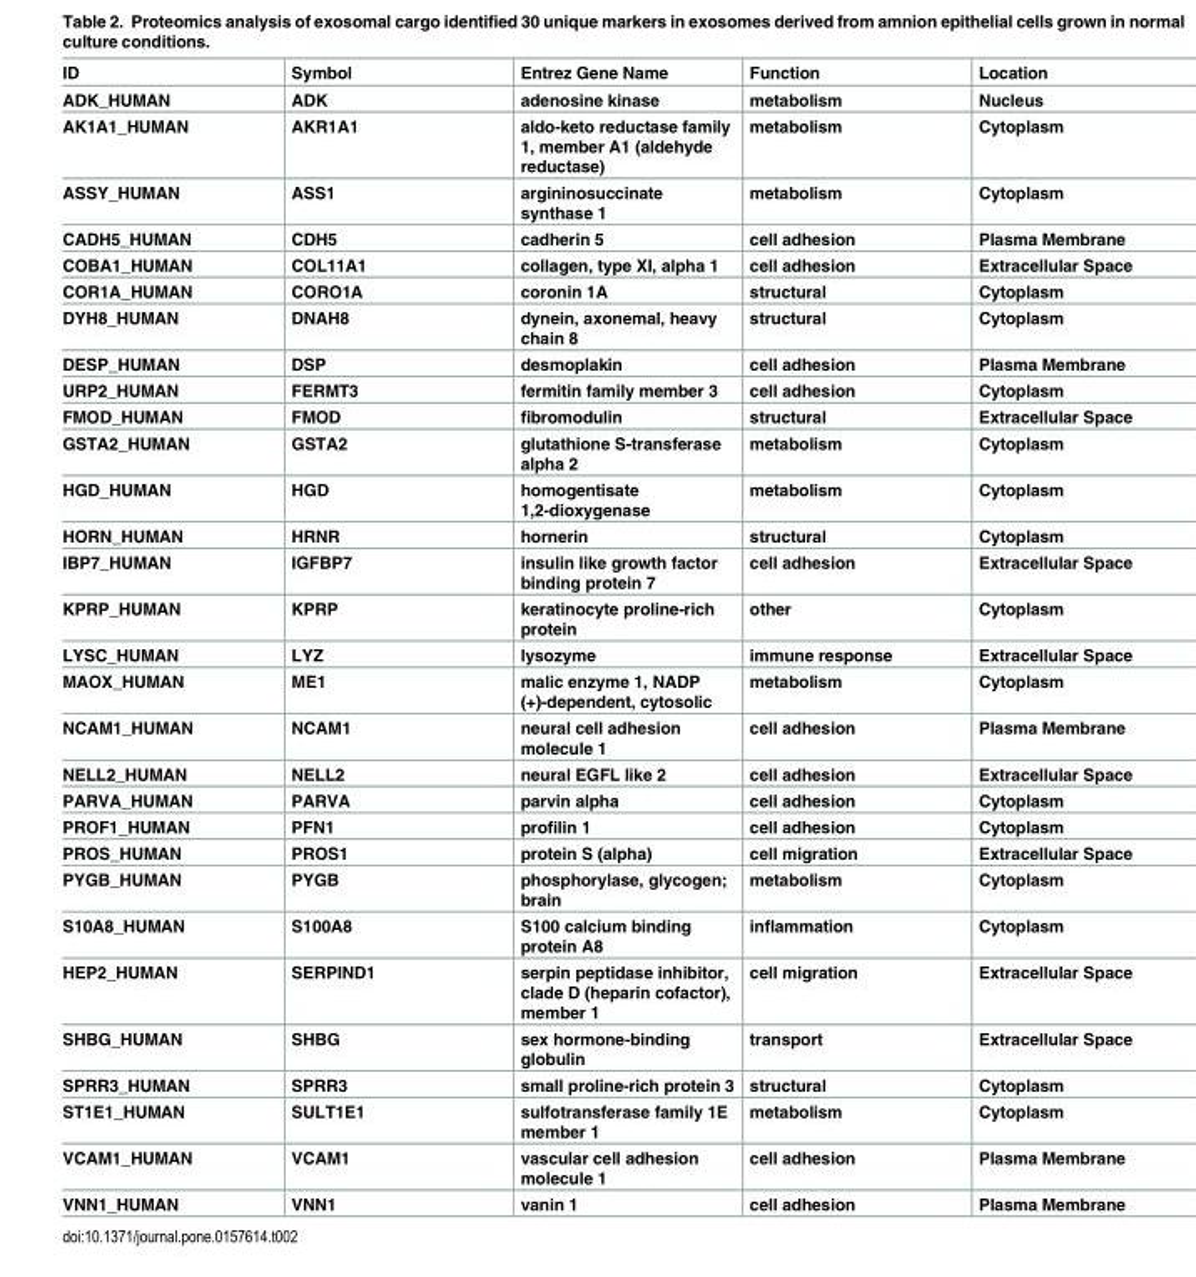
<table><thead><tr><td>ID</td><td>Symbol</td><td>Entrez Gene Name</td><td>Function</td><td>Location</td></tr></thead><tbody><tr><td>ADK_HUMAN</td><td>ADK</td><td>adenosine kinase</td><td>metabolism</td><td>Nucleus</td></tr><tr><td>AK1A1_HUMAN</td><td>AKR1A1</td><td>aldo-keto reductase family 1, member A1 (aldehyde reductase)</td><td>metabolism</td><td>Cytoplasm</td></tr><tr><td>ASSY_HUMAN</td><td>ASS1</td><td>argininosuccinate synthase 1</td><td>metabolism</td><td>Cytoplasm</td></tr><tr><td>CADH5_HUMAN</td><td>CDH5</td><td>cadherin 5</td><td>cell adhesion</td><td>Plasma Membrane</td></tr><tr><td>COBA1_HUMAN</td><td>COL11A1</td><td>collagen, type XI, alpha 1</td><td>cell adhesion</td><td>Extracellular Space</td></tr><tr><td>COR1A_HUMAN</td><td>CORO1A</td><td>coronin 1A</td><td>structural</td><td>Cytoplasm</td></tr><tr><td>DYH8_HUMAN</td><td>DNAH8</td><td>dynein, axonemal, heavy chain 8</td><td>structural</td><td>Cytoplasm</td></tr><tr><td>DESP_HUMAN</td><td>DSP</td><td>desmoplakin</td><td>cell adhesion</td><td>Plasma Membrane</td></tr><tr><td>URP2_HUMAN</td><td>FERMT3</td><td>fermitin family member 3</td><td>cell adhesion</td><td>Cytoplasm</td></tr><tr><td>FMOD_HUMAN</td><td>FMOD</td><td>fibromodulin</td><td>structural</td><td>Extracellular Space</td></tr><tr><td>GSTA2_HUMAN</td><td>GSTA2</td><td>glutathione S-transferase alpha 2</td><td>metabolism</td><td>Cytoplasm</td></tr><tr><td>HGD_HUMAN</td><td>HGD</td><td>homogentisate 1,2-dioxygenase</td><td>metabolism</td><td>Cytoplasm</td></tr><tr><td>HORN_HUMAN</td><td>HRNR</td><td>hornerin</td><td>structural</td><td>Cytoplasm</td></tr><tr><td>IBP7_HUMAN</td><td>IGFBP7</td><td>insulin like growth factor binding protein 7</td><td>cell adhesion</td><td>Extracellular Space</td></tr><tr><td>KPRP_HUMAN</td><td>KPRP</td><td>keratinocyte proline-rich protein</td><td>other</td><td>Cytoplasm</td></tr><tr><td>LYSC_HUMAN</td><td>LYZ</td><td>lysozyme</td><td>immune response</td><td>Extracellular Space</td></tr><tr><td>MAOX_HUMAN</td><td>ME1</td><td>malic enzyme 1, NADP (+)-dependent, cytosolic</td><td>metabolism</td><td>Cytoplasm</td></tr><tr><td>NCAM1_HUMAN</td><td>NCAM1</td><td>neural cell adhesion molecule 1</td><td>cell adhesion</td><td>Plasma Membrane</td></tr><tr><td>NELL2_HUMAN</td><td>NELL2</td><td>neural EGFL like 2</td><td>cell adhesion</td><td>Extracellular Space</td></tr><tr><td>PARVA_HUMAN</td><td>PARVA</td><td>parvin alpha</td><td>cell adhesion</td><td>Cytoplasm</td></tr><tr><td>PROF1_HUMAN</td><td>PFN1</td><td>profilin 1</td><td>cell adhesion</td><td>Cytoplasm</td></tr><tr><td>PROS_HUMAN</td><td>PROS1</td><td>protein S (alpha)</td><td>cell migration</td><td>Extracellular Space</td></tr><tr><td>PYGB_HUMAN</td><td>PYGB</td><td>phosphorylase, glycogen; brain</td><td>metabolism</td><td>Cytoplasm</td></tr><tr><td>S10A8_HUMAN</td><td>S100A8</td><td>S100 calcium binding protein A8</td><td>inflammation</td><td>Cytoplasm</td></tr><tr><td>HEP2_HUMAN</td><td>SERPIND1</td><td>serpin peptidase inhibitor, clade D (heparin cofactor), member 1</td><td>cell migration</td><td>Extracellular Space</td></tr><tr><td>SHBG_HUMAN</td><td>SHBG</td><td>sex hormone-binding globulin</td><td>transport</td><td>Extracellular Space</td></tr><tr><td>SPRR3_HUMAN</td><td>SPRR3</td><td>small proline-rich protein 3</td><td>structural</td><td>Cytoplasm</td></tr><tr><td>ST1E1_HUMAN</td><td>SULT1E1</td><td>sulfotransferase family 1E member 1</td><td>metabolism</td><td>Cytoplasm</td></tr><tr><td>VCAM1_HUMAN</td><td>VCAM1</td><td>vascular cell adhesion molecule 1</td><td>cell adhesion</td><td>Plasma Membrane</td></tr><tr><td>VNN1_HUMAN</td><td>VNN1</td><td>vanin 1</td><td>cell adhesion</td><td>Plasma Membrane</td></tr></tbody></table>